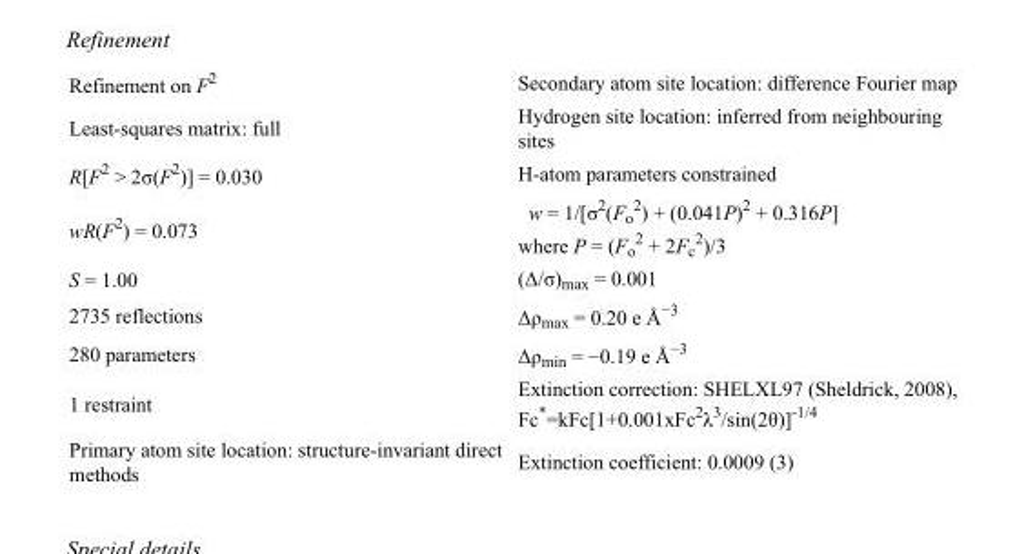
<table><tbody><tr><td>Refinement on F<sup>2</sup></td><td>Secondary atom site location: difference Fourier map</td></tr><tr><td>Least-squares matrix: full</td><td>Hydrogen site location: inferred from neighbouring sites</td></tr><tr><td>R[F<sup>2</sup> &gt; 2σ(F<sup>2</sup>)] = 0.030</td><td>H-atom parameters constrained</td></tr><tr><td>wR(F<sup>2</sup>) = 0.073</td><td>w = 1/[σ<sup>2</sup>(F<sub>o</sub> <sup>2</sup>) + (0.041P)<sup>2</sup> + 0.316P] where P = (F<sub>o</sub> <sup>2</sup> + 2F<sub>c</sub> <sup>2</sup>)/3</td></tr><tr><td>S = 1.00</td><td>(Δ/σ)<sub>max</sub> = 0.001</td></tr><tr><td>2735 reflections</td><td>Δρ<sub>max</sub> = 0.20 e Å<sup>−3</sup></td></tr><tr><td>280 parameters</td><td>Δρ<sub>min</sub> = −0.19 e Å<sup>−3</sup></td></tr><tr><td>1 restraint</td><td>Extinction correction: SHELXL97 (Sheldrick, 2008), Fc*=kFc[1+0.001xFc<sup>2</sup>λ<sup>3</sup>/sin(2θ)]<sup>-1/4</sup></td></tr><tr><td>Primary atom site location: structure-invariant direct methods</td><td>Extinction coefficient: 0.0009 (3)</td></tr></tbody></table>